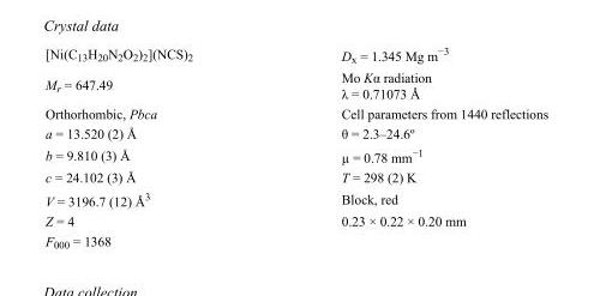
<table><tbody><tr><td>[Ni(C<sub>13</sub>H<sub>20</sub>N<sub>2</sub>O<sub>2</sub>)<sub>2</sub>](NCS)<sub>2</sub></td><td>D<sub>x</sub> = 1.345 Mg m<sup>−3</sup></td></tr><tr><td>M<sub>r</sub> = 647.49</td><td>Mo Kα radiation λ = 0.71073 Å</td></tr><tr><td>Orthorhombic, Pbca</td><td>Cell parameters from 1440 reflections</td></tr><tr><td>a = 13.520 (2) Å</td><td>θ = 2.3–24.6º</td></tr><tr><td>b = 9.810 (3) Å</td><td>µ = 0.78 mm<sup>−1</sup></td></tr><tr><td>c = 24.102 (3) Å</td><td>T = 298 (2) K</td></tr><tr><td>V = 3196.7 (12) Å<sup>3</sup></td><td>Block, red</td></tr><tr><td>Z = 4</td><td>0.23 × 0.22 × 0.20 mm</td></tr><tr><td>F<sub>000</sub> = 1368</td><td></td></tr></tbody></table>